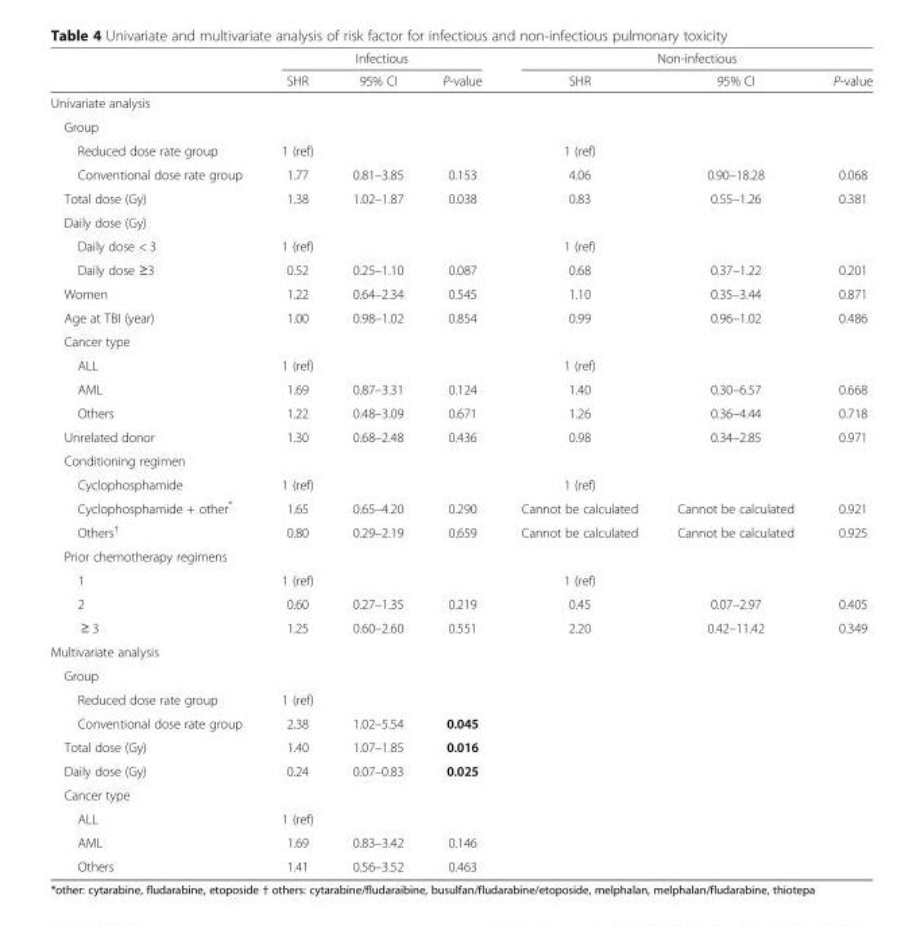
<table><thead><tr><td rowspan="2"></td><td colspan="3">Infectious</td><td colspan="3">Non-infectious</td></tr><tr><td>SHR</td><td>95% CI</td><td>P-value</td><td>SHR</td><td>95% CI</td><td>P-value</td></tr></thead><tbody><tr><td colspan="7">Univariate analysis</td></tr><tr><td colspan="7">Group</td></tr><tr><td>Reduced dose rate group</td><td>1 (ref)</td><td></td><td></td><td>1 (ref)</td><td></td><td></td></tr><tr><td>Conventional dose rate group</td><td>1.77</td><td>0.81–3.85</td><td>0.153</td><td>4.06</td><td>0.90–18.28</td><td>0.068</td></tr><tr><td>Total dose (Gy)</td><td>1.38</td><td>1.02–1.87</td><td>0.038</td><td>0.83</td><td>0.55–1.26</td><td>0.381</td></tr><tr><td colspan="7">Daily dose (Gy)</td></tr><tr><td>Daily dose &lt; 3</td><td>1 (ref)</td><td></td><td></td><td>1 (ref)</td><td></td><td></td></tr><tr><td>Daily dose ≥3</td><td>0.52</td><td>0.25–1.10</td><td>0.087</td><td>0.68</td><td>0.37–1.22</td><td>0.201</td></tr><tr><td>Women</td><td>1.22</td><td>0.64–2.34</td><td>0.545</td><td>1.10</td><td>0.35–3.44</td><td>0.871</td></tr><tr><td>Age at TBI (year)</td><td>1.00</td><td>0.98–1.02</td><td>0.854</td><td>0.99</td><td>0.96–1.02</td><td>0.486</td></tr><tr><td colspan="7">Cancer type</td></tr><tr><td>ALL</td><td>1 (ref)</td><td></td><td></td><td>1 (ref)</td><td></td><td></td></tr><tr><td>AML</td><td>1.69</td><td>0.87–3.31</td><td>0.124</td><td>1.40</td><td>0.30–6.57</td><td>0.668</td></tr><tr><td>Others</td><td>1.22</td><td>0.48–3.09</td><td>0.671</td><td>1.26</td><td>0.36–4.44</td><td>0.718</td></tr><tr><td>Unrelated donor</td><td>1.30</td><td>0.68–2.48</td><td>0.436</td><td>0.98</td><td>0.34–2.85</td><td>0.971</td></tr><tr><td colspan="7">Conditioning regimen</td></tr><tr><td>Cyclophosphamide</td><td>1 (ref)</td><td></td><td></td><td>1 (ref)</td><td></td><td></td></tr><tr><td>Cyclophosphamide + other*</td><td>1.65</td><td>0.65–4.20</td><td>0.290</td><td>Cannot be calculated</td><td>Cannot be calculated</td><td>0.921</td></tr><tr><td>Others<sup>†</sup></td><td>0.80</td><td>0.29–2.19</td><td>0.659</td><td>Cannot be calculated</td><td>Cannot be calculated</td><td>0.925</td></tr><tr><td colspan="7">Prior chemotherapy regimens</td></tr><tr><td>1</td><td>1 (ref)</td><td></td><td></td><td>1 (ref)</td><td></td><td></td></tr><tr><td>2</td><td>0.60</td><td>0.27–1.35</td><td>0.219</td><td>0.45</td><td>0.07–2.97</td><td>0.405</td></tr><tr><td>≥ 3</td><td>1.25</td><td>0.60–2.60</td><td>0.551</td><td>2.20</td><td>0.42–11.42</td><td>0.349</td></tr><tr><td colspan="7">Multivariate analysis</td></tr><tr><td colspan="7">Group</td></tr><tr><td>Reduced dose rate group</td><td>1 (ref)</td><td></td><td></td><td></td><td></td><td></td></tr><tr><td>Conventional dose rate group</td><td>2.38</td><td>1.02–5.54</td><td>0.045</td><td></td><td></td><td></td></tr><tr><td>Total dose (Gy)</td><td>1.40</td><td>1.07–1.85</td><td>0.016</td><td></td><td></td><td></td></tr><tr><td>Daily dose (Gy)</td><td>0.24</td><td>0.07–0.83</td><td>0.025</td><td></td><td></td><td></td></tr><tr><td colspan="7">Cancer type</td></tr><tr><td>ALL</td><td>1 (ref)</td><td></td><td></td><td></td><td></td><td></td></tr><tr><td>AML</td><td>1.69</td><td>0.83–3.42</td><td>0.146</td><td></td><td></td><td></td></tr><tr><td>Others</td><td>1.41</td><td>0.56–3.52</td><td>0.463</td><td></td><td></td><td></td></tr></tbody></table>